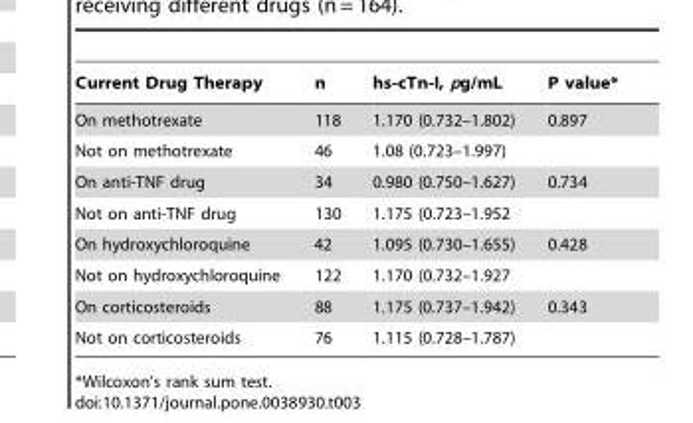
<table><thead><tr><td>Current Drug Therapy</td><td>n</td><td>hs-cTn-I, pg/mL</td><td>P value*</td></tr></thead><tbody><tr><td>On methotrexate</td><td>118</td><td>1.170 (0.732–1.802)</td><td>0.897</td></tr><tr><td>Not on methotrexate</td><td>46</td><td>1.08 (0.723–1.997)</td><td></td></tr><tr><td>On anti-TNF drug</td><td>34</td><td>0.980 (0.750–1.627)</td><td>0.734</td></tr><tr><td>Not on anti-TNF drug</td><td>130</td><td>1.175 (0.723–1.952</td><td></td></tr><tr><td>On hydroxychloroquine</td><td>42</td><td>1.095 (0.730–1.655)</td><td>0.428</td></tr><tr><td>Not on hydroxychloroquine</td><td>122</td><td>1.170 (0.732–1.927</td><td></td></tr><tr><td>On corticosteroids</td><td>88</td><td>1.175 (0.737–1.942)</td><td>0.343</td></tr><tr><td>Not on corticosteroids</td><td>76</td><td>1.115 (0.728–1.787)</td><td></td></tr></tbody></table>